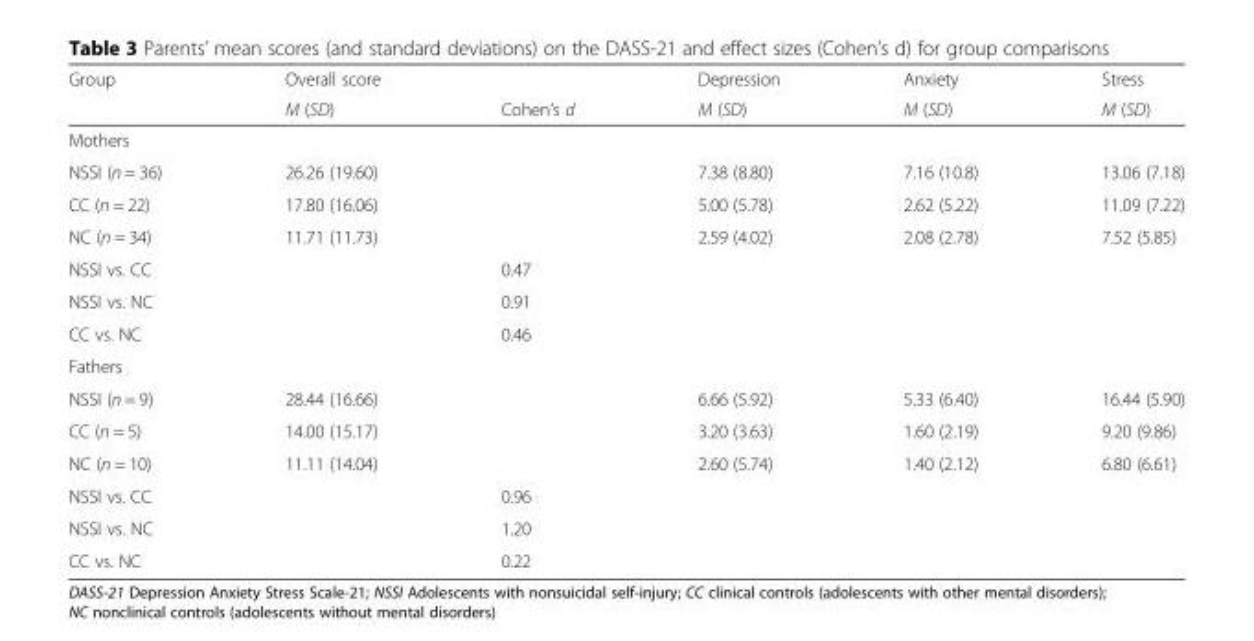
<table><thead><tr><td rowspan="2">Group</td><td colspan="2">Overall score</td><td rowspan="2">Depression M (SD)</td><td rowspan="2">Anxiety M (SD)</td><td rowspan="2">Stress M (SD)</td></tr><tr><td>M (SD)</td><td>Cohen’s d</td></tr></thead><tbody><tr><td colspan="6">Mothers</td></tr><tr><td>NSSI (n = 36)</td><td>26.26 (19.60)</td><td></td><td>7.38 (8.80)</td><td>7.16 (10.8)</td><td>13.06 (7.18)</td></tr><tr><td>CC (n = 22)</td><td>17.80 (16.06)</td><td></td><td>5.00 (5.78)</td><td>2.62 (5.22)</td><td>11.09 (7.22)</td></tr><tr><td>NC (n = 34)</td><td>11.71 (11.73)</td><td></td><td>2.59 (4.02)</td><td>2.08 (2.78)</td><td>7.52 (5.85)</td></tr><tr><td>NSSI vs. CC</td><td></td><td>0.47</td><td></td><td></td><td></td></tr><tr><td>NSSI vs. NC</td><td></td><td>0.91</td><td></td><td></td><td></td></tr><tr><td>CC vs. NC</td><td></td><td>0.46</td><td></td><td></td><td></td></tr><tr><td colspan="6">Fathers</td></tr><tr><td>NSSI (n = 9)</td><td>28.44 (16.66)</td><td></td><td>6.66 (5.92)</td><td>5.33 (6.40)</td><td>16.44 (5.90)</td></tr><tr><td>CC (n = 5)</td><td>14.00 (15.17)</td><td></td><td>3.20 (3.63)</td><td>1.60 (2.19)</td><td>9.20 (9.86)</td></tr><tr><td>NC (n = 10)</td><td>11.11 (14.04)</td><td></td><td>2.60 (5.74)</td><td>1.40 (2.12)</td><td>6.80 (6.61)</td></tr><tr><td>NSSI vs. CC</td><td></td><td>0.96</td><td></td><td></td><td></td></tr><tr><td>NSSI vs. NC</td><td></td><td>1.20</td><td></td><td></td><td></td></tr><tr><td>CC vs. NC</td><td></td><td>0.22</td><td></td><td></td><td></td></tr></tbody></table>